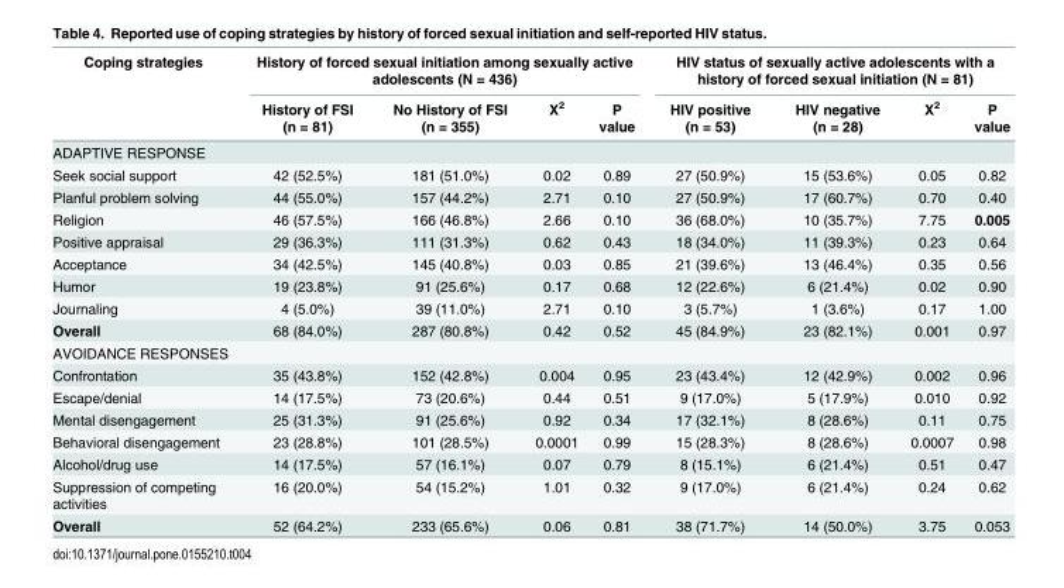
<table><thead><tr><td rowspan="2">Coping strategies</td><td colspan="4">History of forced sexual initiation among sexually active adolescents (N = 436)</td><td colspan="4">HIV status of sexually active adolescents with a history of forced sexual initiation (N = 81)</td></tr><tr><td>History of FSI (n = 81)</td><td>No History of FSI (n = 355)</td><td>X<sup>2</sup></td><td>P value</td><td>HIV positive (n = 53)</td><td>HIV negative (n = 28)</td><td>X<sup>2</sup></td><td>P value</td></tr></thead><tbody><tr><td colspan="9">ADAPTIVE RESPONSE</td></tr><tr><td>Seek social support</td><td>42 (52.5%)</td><td>181 (51.0%)</td><td>0.02</td><td>0.89</td><td>27 (50.9%)</td><td>15 (53.6%)</td><td>0.05</td><td>0.82</td></tr><tr><td>Planful problem solving</td><td>44 (55.0%)</td><td>157 (44.2%)</td><td>2.71</td><td>0.10</td><td>27 (50.9%)</td><td>17 (60.7%)</td><td>0.70</td><td>0.40</td></tr><tr><td>Religion</td><td>46 (57.5%)</td><td>166 (46.8%)</td><td>2.66</td><td>0.10</td><td>36 (68.0%)</td><td>10 (35.7%)</td><td>7.75</td><td>0.005</td></tr><tr><td>Positive appraisal</td><td>29 (36.3%)</td><td>111 (31.3%)</td><td>0.62</td><td>0.43</td><td>18 (34.0%)</td><td>11 (39.3%)</td><td>0.23</td><td>0.64</td></tr><tr><td>Acceptance</td><td>34 (42.5%)</td><td>145 (40.8%)</td><td>0.03</td><td>0.85</td><td>21 (39.6%)</td><td>13 (46.4%)</td><td>0.35</td><td>0.56</td></tr><tr><td>Humor</td><td>19 (23.8%)</td><td>91 (25.6%)</td><td>0.17</td><td>0.68</td><td>12 (22.6%)</td><td>6 (21.4%)</td><td>0.02</td><td>0.90</td></tr><tr><td>Journaling</td><td>4 (5.0%)</td><td>39 (11.0%)</td><td>2.71</td><td>0.10</td><td>3 (5.7%)</td><td>1 (3.6%)</td><td>0.17</td><td>1.00</td></tr><tr><td>Overall</td><td>68 (84.0%)</td><td>287 (80.8%)</td><td>0.42</td><td>0.52</td><td>45 (84.9%)</td><td>23 (82.1%)</td><td>0.001</td><td>0.97</td></tr><tr><td colspan="9">AVOIDANCE RESPONSES</td></tr><tr><td>Confrontation</td><td>35 (43.8%)</td><td>152 (42.8%)</td><td>0.004</td><td>0.95</td><td>23 (43.4%)</td><td>12 (42.9%)</td><td>0.002</td><td>0.96</td></tr><tr><td>Escape/denial</td><td>14 (17.5%)</td><td>73 (20.6%)</td><td>0.44</td><td>0.51</td><td>9 (17.0%)</td><td>5 (17.9%)</td><td>0.010</td><td>0.92</td></tr><tr><td>Mental disengagement</td><td>25 (31.3%)</td><td>91 (25.6%)</td><td>0.92</td><td>0.34</td><td>17 (32.1%)</td><td>8 (28.6%)</td><td>0.11</td><td>0.75</td></tr><tr><td>Behavioral disengagement</td><td>23 (28.8%)</td><td>101 (28.5%)</td><td>0.0001</td><td>0.99</td><td>15 (28.3%)</td><td>8 (28.6%)</td><td>0.0007</td><td>0.98</td></tr><tr><td>Alcohol/drug use</td><td>14 (17.5%)</td><td>57 (16.1%)</td><td>0.07</td><td>0.79</td><td>8 (15.1%)</td><td>6 (21.4%)</td><td>0.51</td><td>0.47</td></tr><tr><td>Suppression of competing activities</td><td>16 (20.0%)</td><td>54 (15.2%)</td><td>1.01</td><td>0.32</td><td>9 (17.0%)</td><td>6 (21.4%)</td><td>0.24</td><td>0.62</td></tr><tr><td>Overall</td><td>52 (64.2%)</td><td>233 (65.6%)</td><td>0.06</td><td>0.81</td><td>38 (71.7%)</td><td>14 (50.0%)</td><td>3.75</td><td>0.053</td></tr></tbody></table>